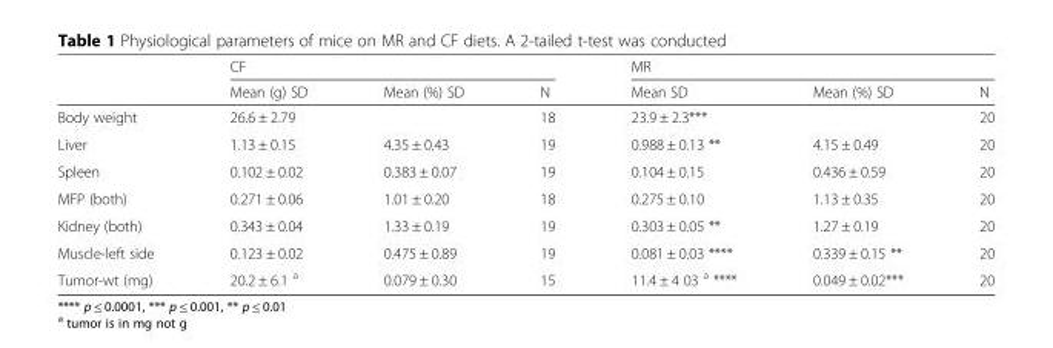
<table><thead><tr><td rowspan="2"></td><td colspan="3">CF</td><td colspan="3">MR</td></tr><tr><td>Mean (g) SD</td><td>Mean (%) SD</td><td>N</td><td>Mean SD</td><td>Mean (%) SD</td><td>N</td></tr></thead><tbody><tr><td>Body weight</td><td>26.6 ± 2.79</td><td></td><td>18</td><td>23.9 ± 2.3***</td><td></td><td>20</td></tr><tr><td>Liver</td><td>1.13 ± 0.15</td><td>4.35 ± 0.43</td><td>19</td><td>0.988 ± 0.13 **</td><td>4.15 ± 0.49</td><td>20</td></tr><tr><td>Spleen</td><td>0.102 ± 0.02</td><td>0.383 ± 0.07</td><td>19</td><td>0.104 ± 0.15</td><td>0.436 ± 0.59</td><td>20</td></tr><tr><td>MFP (both)</td><td>0.271 ± 0.06</td><td>1.01 ± 0.20</td><td>18</td><td>0.275 ± 0.10</td><td>1.13 ± 0.35</td><td>20</td></tr><tr><td>Kidney (both)</td><td>0.343 ± 0.04</td><td>1.33 ± 0.19</td><td>19</td><td>0.303 ± 0.05 **</td><td>1.27 ± 0.19</td><td>20</td></tr><tr><td>Muscle-left side</td><td>0.123 ± 0.02</td><td>0.475 ± 0.89</td><td>19</td><td>0.081 ± 0.03 ****</td><td>0.339 ± 0.15 **</td><td>20</td></tr><tr><td>Tumor-wt (mg)</td><td>20.2 ± 6.1 <sup>a</sup></td><td>0.079 ± 0.30</td><td>15</td><td>11.4 ± 4 03 <sup>a</sup> ****</td><td>0.049 ± 0.02***</td><td>20</td></tr></tbody></table>